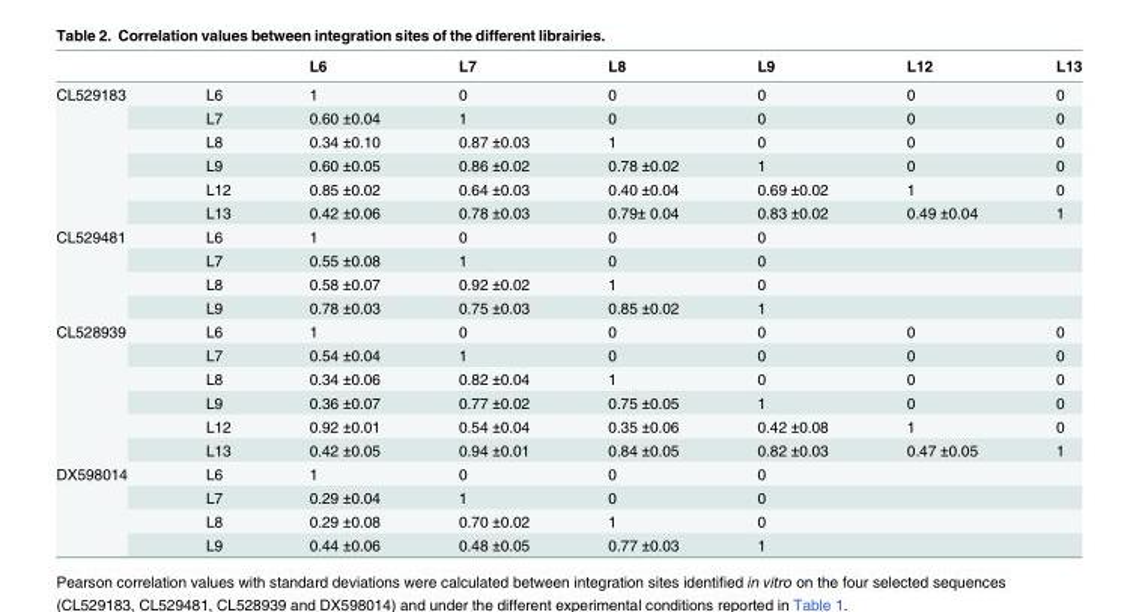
<table><thead><tr><td></td><td></td><td>L6</td><td>L7</td><td>L8</td><td>L9</td><td>L12</td><td>L13</td></tr></thead><tbody><tr><td rowspan="6">CL529183</td><td>L6</td><td>1</td><td>0</td><td>0</td><td>0</td><td>0</td><td>0</td></tr><tr><td>L7</td><td>0.60 ±0.04</td><td>1</td><td>0</td><td>0</td><td>0</td><td>0</td></tr><tr><td>L8</td><td>0.34 ±0.10</td><td>0.87 ±0.03</td><td>1</td><td>0</td><td>0</td><td>0</td></tr><tr><td>L9</td><td>0.60 ±0.05</td><td>0.86 ±0.02</td><td>0.78 ±0.02</td><td>1</td><td>0</td><td>0</td></tr><tr><td>L12</td><td>0.85 ±0.02</td><td>0.64 ±0.03</td><td>0.40 ±0.04</td><td>0.69 ±0.02</td><td>1</td><td>0</td></tr><tr><td>L13</td><td>0.42 ±0.06</td><td>0.78 ±0.03</td><td>0.79± 0.04</td><td>0.83 ±0.02</td><td>0.49 ±0.04</td><td>1</td></tr><tr><td rowspan="4">CL529481</td><td>L6</td><td>1</td><td>0</td><td>0</td><td>0</td><td></td><td></td></tr><tr><td>L7</td><td>0.55 ±0.08</td><td>1</td><td>0</td><td>0</td><td></td><td></td></tr><tr><td>L8</td><td>0.58 ±0.07</td><td>0.92 ±0.02</td><td>1</td><td>0</td><td></td><td></td></tr><tr><td>L9</td><td>0.78 ±0.03</td><td>0.75 ±0.03</td><td>0.85 ±0.02</td><td>1</td><td></td><td></td></tr><tr><td rowspan="6">CL528939</td><td>L6</td><td>1</td><td>0</td><td>0</td><td>0</td><td>0</td><td>0</td></tr><tr><td>L7</td><td>0.54 ±0.04</td><td>1</td><td>0</td><td>0</td><td>0</td><td>0</td></tr><tr><td>L8</td><td>0.34 ±0.06</td><td>0.82 ±0.04</td><td>1</td><td>0</td><td>0</td><td>0</td></tr><tr><td>L9</td><td>0.36 ±0.07</td><td>0.77 ±0.02</td><td>0.75 ±0.05</td><td>1</td><td>0</td><td>0</td></tr><tr><td>L12</td><td>0.92 ±0.01</td><td>0.54 ±0.04</td><td>0.35 ±0.06</td><td>0.42 ±0.08</td><td>1</td><td>0</td></tr><tr><td>L13</td><td>0.42 ±0.05</td><td>0.94 ±0.01</td><td>0.84 ±0.05</td><td>0.82 ±0.03</td><td>0.47 ±0.05</td><td>1</td></tr><tr><td rowspan="4">DX598014</td><td>L6</td><td>1</td><td>0</td><td>0</td><td>0</td><td></td><td></td></tr><tr><td>L7</td><td>0.29 ±0.04</td><td>1</td><td>0</td><td>0</td><td></td><td></td></tr><tr><td>L8</td><td>0.29 ±0.08</td><td>0.70 ±0.02</td><td>1</td><td>0</td><td></td><td></td></tr><tr><td>L9</td><td>0.44 ±0.06</td><td>0.48 ±0.05</td><td>0.77 ±0.03</td><td>1</td><td></td><td></td></tr></tbody></table>